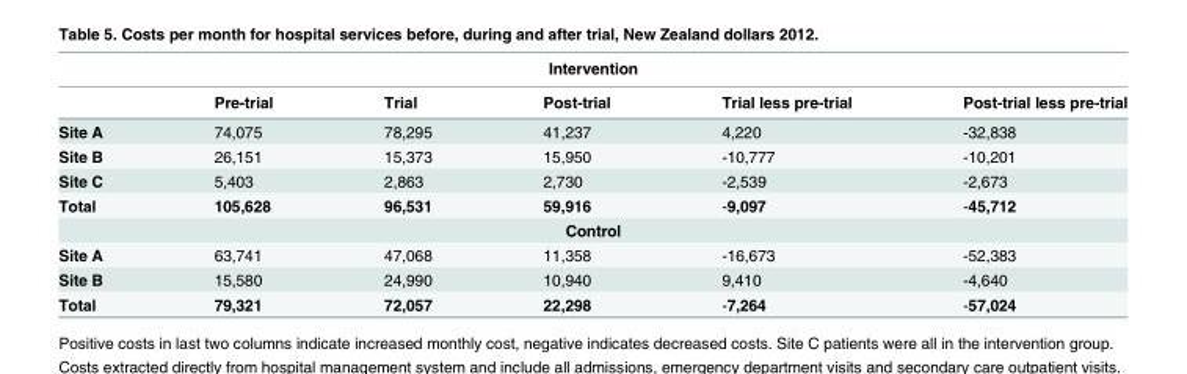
<table><thead><tr><td colspan="6">Intervention</td></tr><tr><td></td><td>Pre-trial</td><td>Trial</td><td>Post-trial</td><td>Trial less pre-trial</td><td>Post-trial less pre-trial</td></tr></thead><tbody><tr><td>Site A</td><td>74,075</td><td>78,295</td><td>41,237</td><td>4,220</td><td>-32,838</td></tr><tr><td>Site B</td><td>26,151</td><td>15,373</td><td>15,950</td><td>-10,777</td><td>-10,201</td></tr><tr><td>Site C</td><td>5,403</td><td>2,863</td><td>2,730</td><td>-2,539</td><td>-2,673</td></tr><tr><td>Total</td><td>105,628</td><td>96,531</td><td>59,916</td><td>-9,097</td><td>-45,712</td></tr><tr><td colspan="6">Control</td></tr><tr><td>Site A</td><td>63,741</td><td>47,068</td><td>11,358</td><td>-16,673</td><td>-52,383</td></tr><tr><td>Site B</td><td>15,580</td><td>24,990</td><td>10,940</td><td>9,410</td><td>-4,640</td></tr><tr><td>Total</td><td>79,321</td><td>72,057</td><td>22,298</td><td>-7,264</td><td>-57,024</td></tr></tbody></table>